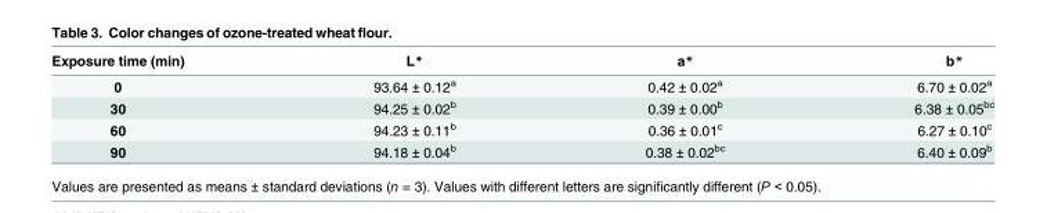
<table><thead><tr><td>Exposure time (min)</td><td>L*</td><td>a*</td><td>b*</td></tr></thead><tbody><tr><td>0</td><td>93.64 ± 0.12<sup>a</sup></td><td>0.42 ± 0.02<sup>a</sup></td><td>6.70 ± 0.02<sup>a</sup></td></tr><tr><td>30</td><td>94.25 ± 0.02<sup>b</sup></td><td>0.39 ± 0.00<sup>b</sup></td><td>6.38 ± 0.05<sup>bc</sup></td></tr><tr><td>60</td><td>94.23 ± 0.11<sup>b</sup></td><td>0.36 ± 0.01<sup>c</sup></td><td>6.27 ± 0.10<sup>c</sup></td></tr><tr><td>90</td><td>94.18 ± 0.04<sup>b</sup></td><td>0.38 ± 0.02<sup>bc</sup></td><td>6.40 ± 0.09<sup>b</sup></td></tr></tbody></table>